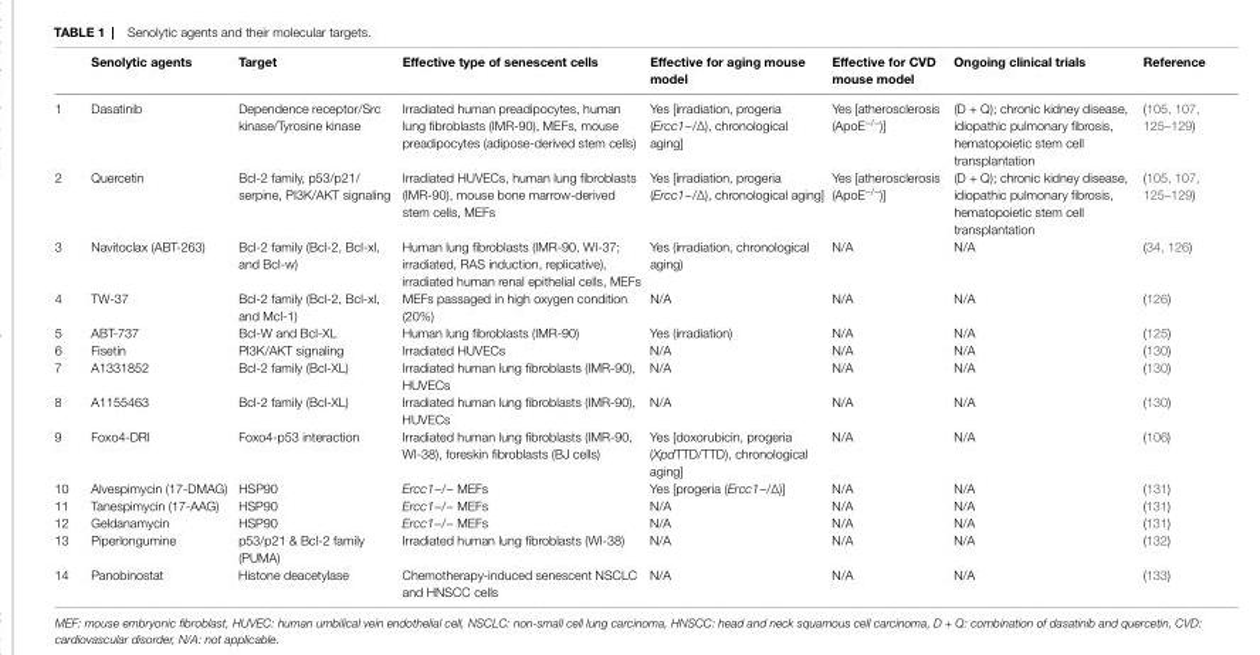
<table><thead><tr><td></td><td>Senolytic agents</td><td>target</td><td>effective type of senescent cells</td><td>effective for aging mouse model</td><td>effective for CvD mouse model</td><td>ongoing clinical trials</td><td>Reference</td></tr></thead><tbody><tr><td>1</td><td>Dasatinib</td><td>Dependence receptor/Src kinase/Tyrosine kinase</td><td>Irradiated human preadipocytes, human lung fibroblasts (IMR-90), MEFs, mouse preadipocytes (adipose-derived stem cells)</td><td>Yes [irradiation, progeria (Ercc1<sup>−/Δ</sup>), chronological aging]</td><td>Yes [atherosclerosis (ApoE<sup>−/−</sup>)]</td><td>(D + Q); chronic kidney disease, idiopathic pulmonary fibrosis, hematopoietic stem cell transplantation</td><td>(105, 107, 125–129)</td></tr><tr><td>2</td><td>Quercetin</td><td>Bcl-2 family, p53/p21/ serpine, PI3K/AKT signaling</td><td>Irradiated HUVECs, human lung fibroblasts (IMR-90), mouse bone marrow-derived stem cells, MEFs</td><td>Yes [irradiation, progeria (Ercc1<sup>−/Δ</sup>), chronological aging]</td><td>Yes [atherosclerosis (ApoE<sup>−/−</sup>)]</td><td>(D + Q); chronic kidney disease, idiopathic pulmonary fibrosis, hematopoietic stem cell transplantation</td><td>(105, 107, 125–129)</td></tr><tr><td>3</td><td>Navitoclax (ABT-263)</td><td>Bcl-2 family (Bcl-2, Bcl-xl, and Bcl-w)</td><td>Human lung fibroblasts (IMR-90, WI-37; irradiated, RAS induction, replicative), irradiated human renal epithelial cells, MEFs</td><td>Yes (irradiation, chronological aging)</td><td>N/A</td><td>N/A</td><td>(34, 126)</td></tr><tr><td>4</td><td>TW-37</td><td>Bcl-2 family (Bcl-2, Bcl-xl, and Mcl-1)</td><td>MEFs passaged in high oxygen condition (20%)</td><td>N/A</td><td>N/A</td><td>N/A</td><td>(126)</td></tr><tr><td>5</td><td>ABT-737</td><td>Bcl-W and Bcl-XL</td><td>Human lung fibroblasts (IMR-90)</td><td>Yes (irradiation)</td><td>N/A</td><td>N/A</td><td>(125)</td></tr><tr><td>6</td><td>Fisetin</td><td>PI3K/AKT signaling</td><td>Irradiated HUVECs</td><td>N/A</td><td>N/A</td><td>N/A</td><td>(130)</td></tr><tr><td>7</td><td>A1331852</td><td>Bcl-2 family (Bcl-XL)</td><td>Irradiated human lung fibroblasts (IMR-90), HUVECs</td><td>N/A</td><td>N/A</td><td>N/A</td><td>(130)</td></tr><tr><td>8</td><td>A1155463</td><td>Bcl-2 family (Bcl-XL)</td><td>Irradiated human lung fibroblasts (IMR-90), HUVECs</td><td>N/A</td><td>N/A</td><td>N/A</td><td>(130)</td></tr><tr><td>9</td><td>Foxo4-DRI</td><td>Foxo4-p53 interaction</td><td>Irradiated human lung fibroblasts (IMR-90, WI-38), foreskin fibroblasts (BJ cells)</td><td>Yes [doxorubicin, progeria (Xpd<sup>TTD/TTD</sup>), chronological aging]</td><td>N/A</td><td>N/A</td><td>(106)</td></tr><tr><td>10</td><td>Alvespimycin (17-DMAG)</td><td>HSP90</td><td>Ercc1<sup>−/−</sup> MEFs</td><td>Yes [progeria (Ercc1<sup>−/Δ</sup>)]</td><td>N/A</td><td>N/A</td><td>(131)</td></tr><tr><td>11</td><td>Tanespimycin (17-AAG)</td><td>HSP90</td><td>Ercc1<sup>−/−</sup> MEFs</td><td>N/A</td><td>N/A</td><td>N/A</td><td>(131)</td></tr><tr><td>12</td><td>Geldanamycin</td><td>HSP90</td><td>Ercc1<sup>−/−</sup> MEFs</td><td>N/A</td><td>N/A</td><td>N/A</td><td>(131)</td></tr><tr><td>13</td><td>Piperlongumine</td><td>p53/p21 &amp; Bcl-2 family (PUMA)</td><td>Irradiated human lung fibroblasts (WI-38)</td><td>N/A</td><td>N/A</td><td>N/A</td><td>(132)</td></tr><tr><td>14</td><td>Panobinostat</td><td>Histone deacetylase</td><td>Chemotherapy-induced senescent NSCLC and HNSCC cells</td><td>N/A</td><td>N/A</td><td>N/A</td><td>(133)</td></tr></tbody></table>